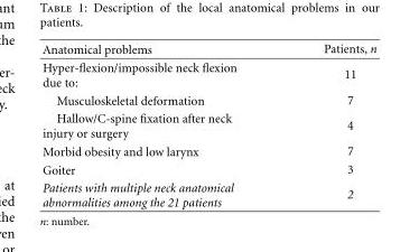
<table><thead><tr><td>Anatomical problems</td><td>Patients, n</td></tr></thead><tbody><tr><td>Hyper-flexion/impossible neck flexion due to:</td><td>11</td></tr><tr><td>Musculoskeletal deformation</td><td>7</td></tr><tr><td>Hallow/C-spine fixation after neck injury or surgery</td><td>4</td></tr><tr><td>Morbid obesity and low larynx</td><td>7</td></tr><tr><td>Goiter</td><td>3</td></tr><tr><td>Patients with multiple neck anatomical abnormalities among the 21 patients</td><td>2</td></tr></tbody></table>